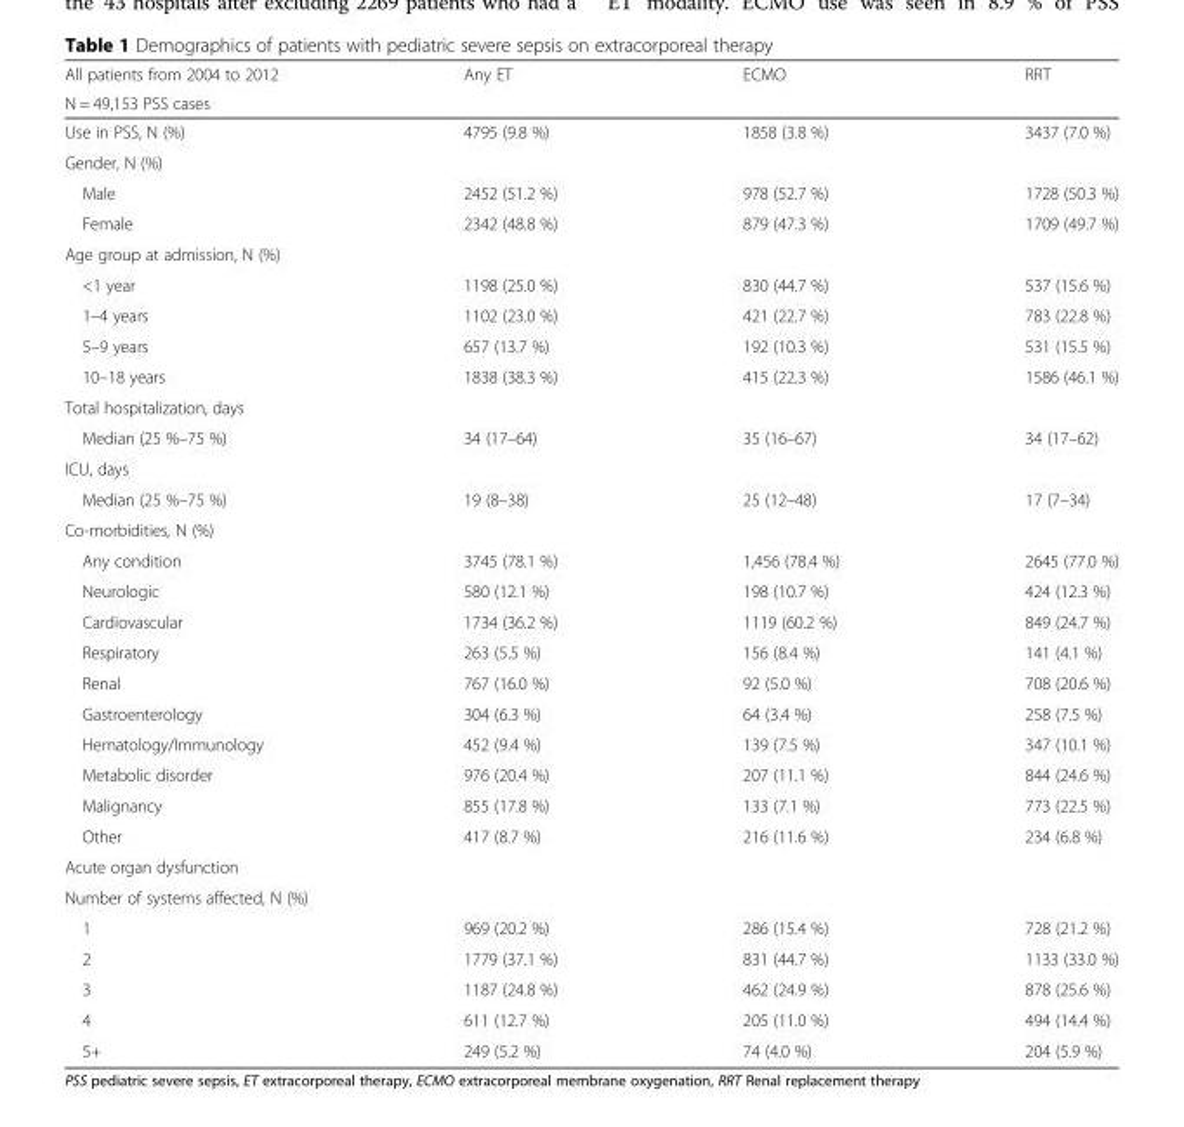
<table><thead><tr><td rowspan="2">All patients from 2004 to 2012 N = 49,153 PSS cases</td><td rowspan="2">Any ET</td><td rowspan="2">ECMO</td><td rowspan="2">RRT</td></tr><tr></tr></thead><tbody><tr><td>Use in PSS, N (%)</td><td>4795 (9.8 %)</td><td>1858 (3.8 %)</td><td>3437 (7.0 %)</td></tr><tr><td colspan="4">Gender, N (%)</td></tr><tr><td>Male</td><td>2452 (51.2 %)</td><td>978 (52.7 %)</td><td>1728 (50.3 %)</td></tr><tr><td>Female</td><td>2342 (48.8 %)</td><td>879 (47.3 %)</td><td>1709 (49.7 %)</td></tr><tr><td colspan="4">Age group at admission, N (%)</td></tr><tr><td>&lt;1 year</td><td>1198 (25.0 %)</td><td>830 (44.7 %)</td><td>537 (15.6 %)</td></tr><tr><td>1–4 years</td><td>1102 (23.0 %)</td><td>421 (22.7 %)</td><td>783 (22.8 %)</td></tr><tr><td>5–9 years</td><td>657 (13.7 %)</td><td>192 (10.3 %)</td><td>531 (15.5 %)</td></tr><tr><td>10–18 years</td><td>1838 (38.3 %)</td><td>415 (22.3 %)</td><td>1586 (46.1 %)</td></tr><tr><td colspan="4">Total hospitalization, days</td></tr><tr><td>Median (25 %–75 %)</td><td>34 (17–64)</td><td>35 (16–67)</td><td>34 (17–62)</td></tr><tr><td colspan="4">ICU, days</td></tr><tr><td>Median (25 %–75 %)</td><td>19 (8–38)</td><td>25 (12–48)</td><td>17 (7–34)</td></tr><tr><td colspan="4">Co-morbidities, N (%)</td></tr><tr><td>Any condition</td><td>3745 (78.1 %)</td><td>1,456 (78.4 %)</td><td>2645 (77.0 %)</td></tr><tr><td>Neurologic</td><td>580 (12.1 %)</td><td>198 (10.7 %)</td><td>424 (12.3 %)</td></tr><tr><td>Cardiovascular</td><td>1734 (36.2 %)</td><td>1119 (60.2 %)</td><td>849 (24.7 %)</td></tr><tr><td>Respiratory</td><td>263 (5.5 %)</td><td>156 (8.4 %)</td><td>141 (4.1 %)</td></tr><tr><td>Renal</td><td>767 (16.0 %)</td><td>92 (5.0 %)</td><td>708 (20.6 %)</td></tr><tr><td>Gastroenterology</td><td>304 (6.3 %)</td><td>64 (3.4 %)</td><td>258 (7.5 %)</td></tr><tr><td>Hematology/Immunology</td><td>452 (9.4 %)</td><td>139 (7.5 %)</td><td>347 (10.1 %)</td></tr><tr><td>Metabolic disorder</td><td>976 (20.4 %)</td><td>207 (11.1 %)</td><td>844 (24.6 %)</td></tr><tr><td>Malignancy</td><td>855 (17.8 %)</td><td>133 (7.1 %)</td><td>773 (22.5 %)</td></tr><tr><td>Other</td><td>417 (8.7 %)</td><td>216 (11.6 %)</td><td>234 (6.8 %)</td></tr><tr><td colspan="4">Acute organ dysfunction</td></tr><tr><td colspan="4">Number of systems affected, N (%)</td></tr><tr><td>1</td><td>969 (20.2 %)</td><td>286 (15.4 %)</td><td>728 (21.2 %)</td></tr><tr><td>2</td><td>1779 (37.1 %)</td><td>831 (44.7 %)</td><td>1133 (33.0 %)</td></tr><tr><td>3</td><td>1187 (24.8 %)</td><td>462 (24.9 %)</td><td>878 (25.6 %)</td></tr><tr><td>4</td><td>611 (12.7 %)</td><td>205 (11.0 %)</td><td>494 (14.4 %)</td></tr><tr><td>5+</td><td>249 (5.2 %)</td><td>74 (4.0 %)</td><td>204 (5.9 %)</td></tr></tbody></table>